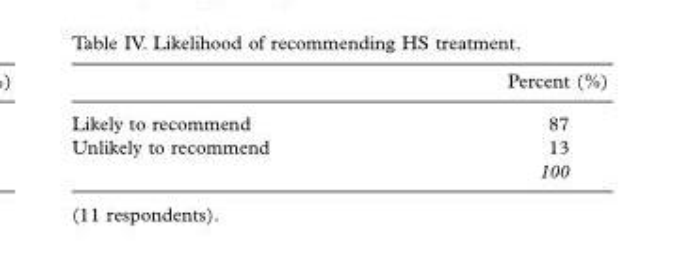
<table><thead><tr><td></td><td>Percent (%)</td></tr></thead><tbody><tr><td>Likely to recommend</td><td>87</td></tr><tr><td rowspan="2">Unlikely to recommend</td><td>13</td></tr><tr><td>100</td></tr></tbody></table>